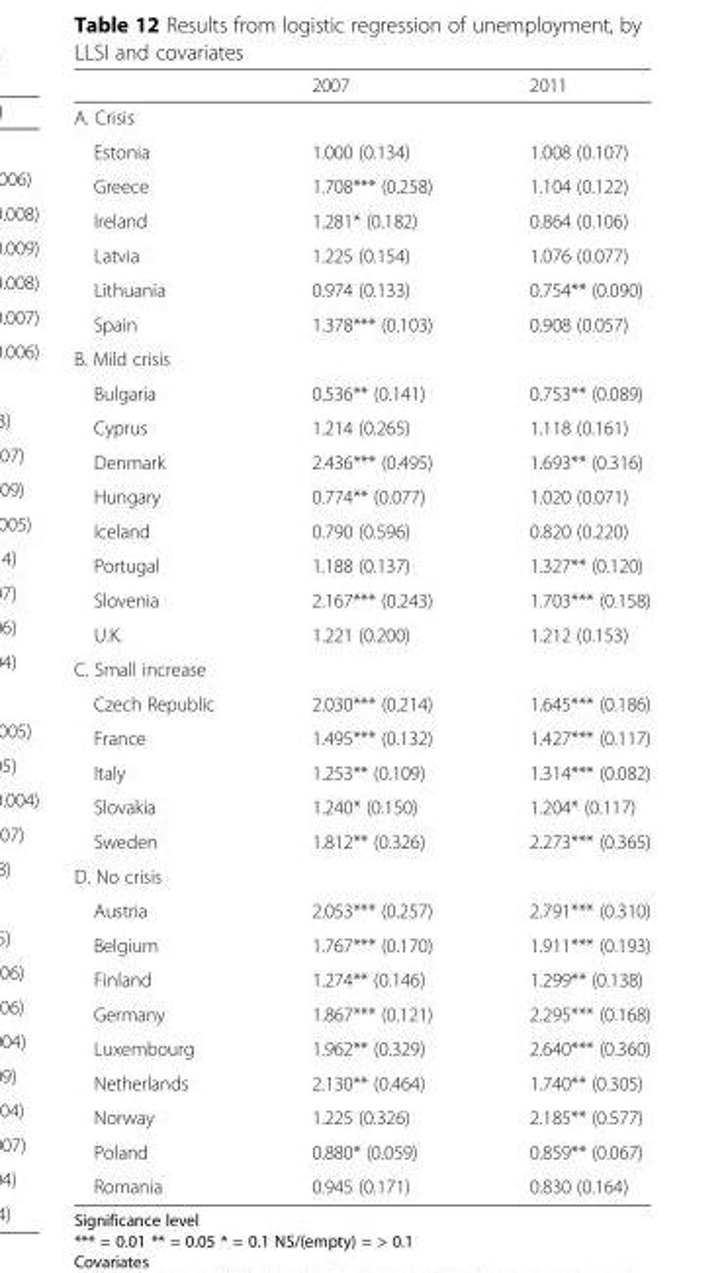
<table><thead><tr><td></td><td>2007</td><td>2011</td></tr></thead><tbody><tr><td colspan="3">A. Crisis</td></tr><tr><td>Estonia</td><td>1.000 (0.134)</td><td>1.008 (0.107)</td></tr><tr><td>Greece</td><td>1.708*** (0.258)</td><td>1.104 (0.122)</td></tr><tr><td>Ireland</td><td>1.281* (0.182)</td><td>0.864 (0.106)</td></tr><tr><td>Latvia</td><td>1.225 (0.154)</td><td>1.076 (0.077)</td></tr><tr><td>Lithuania</td><td>0.974 (0.133)</td><td>0.754** (0.090)</td></tr><tr><td>Spain</td><td>1.378*** (0.103)</td><td>0.908 (0.057)</td></tr><tr><td colspan="3">B. Mild crisis</td></tr><tr><td>Bulgaria</td><td>0.536** (0.141)</td><td>0.753** (0.089)</td></tr><tr><td>Cyprus</td><td>1.214 (0.265)</td><td>1.118 (0.161)</td></tr><tr><td>Denmark</td><td>2.436*** (0.495)</td><td>1.693** (0.316)</td></tr><tr><td>Hungary</td><td>0.774** (0.077)</td><td>1.020 (0.071)</td></tr><tr><td>Iceland</td><td>0.790 (0.596)</td><td>0.820 (0.220)</td></tr><tr><td>Portugal</td><td>1.188 (0.137)</td><td>1.327** (0.120)</td></tr><tr><td>Slovenia</td><td>2.167*** (0.243)</td><td>1.703*** (0.158)</td></tr><tr><td>U.K.</td><td>1.221 (0.200)</td><td>1.212 (0.153)</td></tr><tr><td colspan="3">C. Small increase</td></tr><tr><td>Czech Republic</td><td>2.030*** (0.214)</td><td>1.645*** (0.186)</td></tr><tr><td>France</td><td>1.495*** (0.132)</td><td>1.427*** (0.117)</td></tr><tr><td>Italy</td><td>1.253** (0.109)</td><td>1.314*** (0.082)</td></tr><tr><td>Slovakia</td><td>1.240* (0.150)</td><td>1.204* (0.117)</td></tr><tr><td>Sweden</td><td>1.812** (0.326)</td><td>2.273*** (0.365)</td></tr><tr><td colspan="3">D. No crisis</td></tr><tr><td>Austria</td><td>2.053*** (0.257)</td><td>2.791*** (0.310)</td></tr><tr><td>Belgium</td><td>1.767*** (0.170)</td><td>1.911*** (0.193)</td></tr><tr><td>Finland</td><td>1.274** (0.146)</td><td>1.299** (0.138)</td></tr><tr><td>Germany</td><td>1.867*** (0.121)</td><td>2.295*** (0.168)</td></tr><tr><td>Luxembourg</td><td>1.962** (0.329)</td><td>2.640*** (0.360)</td></tr><tr><td>Netherlands</td><td>2.130** (0.464)</td><td>1.740** (0.305)</td></tr><tr><td>Norway</td><td>1.225 (0.326)</td><td>2.185** (0.577)</td></tr><tr><td>Poland</td><td>0.880* (0.059)</td><td>0.859** (0.067)</td></tr><tr><td>Romania</td><td>0.945 (0.171)</td><td>0.830 (0.164)</td></tr></tbody></table>